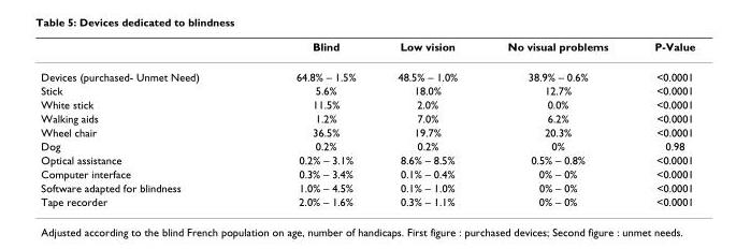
<table><thead><tr><td></td><td>Blind</td><td>Low vision</td><td>No visual problems</td><td>P-Value</td></tr></thead><tbody><tr><td>Devices (purchased- Unmet Need)</td><td>64.8% – 1.5%</td><td>48.5% – 1.0%</td><td>38.9% – 0.6%</td><td>&lt;0.0001</td></tr><tr><td>Stick</td><td>5.6%</td><td>18.0%</td><td>12.7%</td><td>&lt;0.0001</td></tr><tr><td>White stick</td><td>11.5%</td><td>2.0%</td><td>0.0%</td><td>&lt;0.0001</td></tr><tr><td>Walking aids</td><td>1.2%</td><td>7.0%</td><td>6.2%</td><td>&lt;0.0001</td></tr><tr><td>Wheel chair</td><td>36.5%</td><td>19.7%</td><td>20.3%</td><td>&lt;0.0001</td></tr><tr><td>Dog</td><td>0.2%</td><td>0.2%</td><td>0%</td><td>0.98</td></tr><tr><td>Optical assistance</td><td>0.2% – 3.1%</td><td>8.6% – 8.5%</td><td>0.5% – 0.8%</td><td>&lt;0.0001</td></tr><tr><td>Computer interface</td><td>0.3% – 3.4%</td><td>0.1% – 0.4%</td><td>0% – 0%</td><td>&lt;0.0001</td></tr><tr><td>Software adapted for blindness</td><td>1.0% – 4.5%</td><td>0.1% – 1.0%</td><td>0% – 0%</td><td>&lt;0.0001</td></tr><tr><td>Tape recorder</td><td>2.0% – 1.6%</td><td>0.3% – 1.1%</td><td>0% – 0%</td><td>&lt;0.0001</td></tr></tbody></table>